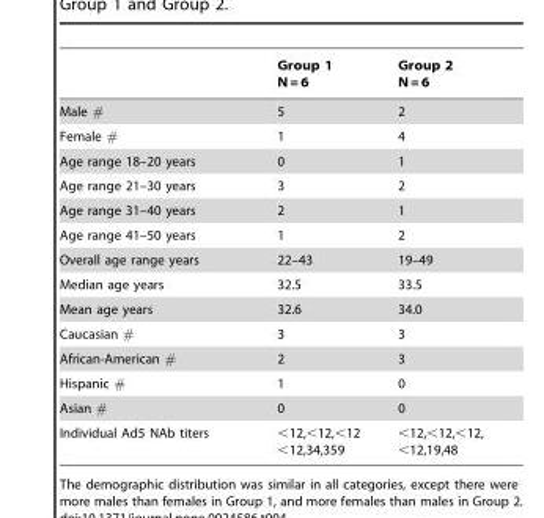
<table><thead><tr><td></td><td>Group 1 N = 6</td><td>Group 2 N = 6</td></tr></thead><tbody><tr><td>Male #</td><td>5</td><td>2</td></tr><tr><td>Female #</td><td>1</td><td>4</td></tr><tr><td>Age range 18–20 years</td><td>0</td><td>1</td></tr><tr><td>Age range 21–30 years</td><td>3</td><td>2</td></tr><tr><td>Age range 31–40 years</td><td>2</td><td>1</td></tr><tr><td>Age range 41–50 years</td><td>1</td><td>2</td></tr><tr><td>Overall age range years</td><td>22–43</td><td>19–49</td></tr><tr><td>Median age years</td><td>32.5</td><td>33.5</td></tr><tr><td>Mean age years</td><td>32.6</td><td>34.0</td></tr><tr><td>Caucasian #</td><td>3</td><td>3</td></tr><tr><td>African-American #</td><td>2</td><td>3</td></tr><tr><td>Hispanic #</td><td>1</td><td>0</td></tr><tr><td>Asian #</td><td>0</td><td>0</td></tr><tr><td>Individual Ad5 NAb titers</td><td>&lt;12,&lt;12,&lt;12 &lt;12,34,359</td><td>&lt;12,&lt;12,&lt;12, &lt;12,19,48</td></tr></tbody></table>